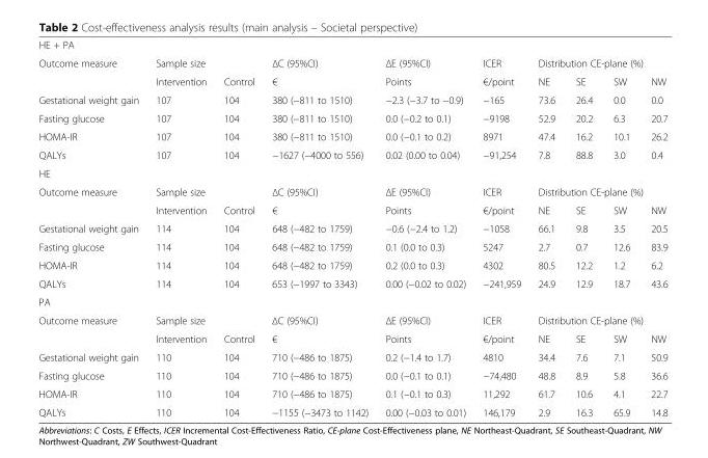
<table><tbody><tr><td colspan="10">HE + PA</td></tr><tr><td rowspan="2">Outcome measure</td><td colspan="2">Sample size</td><td>ΔC (95%CI)</td><td>ΔE (95%CI)</td><td>ICER</td><td colspan="4">Distribution CE-plane (%)</td></tr><tr><td>Intervention</td><td>Control</td><td>€</td><td>Points</td><td>€/point</td><td>NE</td><td>SE</td><td>SW</td><td>NW</td></tr><tr><td>Gestational weight gain</td><td>107</td><td>104</td><td>380 (−811 to 1510)</td><td>−2.3 (−3.7 to −0.9)</td><td>−165</td><td>73.6</td><td>26.4</td><td>0.0</td><td>0.0</td></tr><tr><td>Fasting glucose</td><td>107</td><td>104</td><td>380 (−811 to 1510)</td><td>0.0 (−0.2 to 0.1)</td><td>−9198</td><td>52.9</td><td>20.2</td><td>6.3</td><td>20.7</td></tr><tr><td>HOMA-IR</td><td>107</td><td>104</td><td>380 (−811 to 1510)</td><td>0.0 (−0.1 to 0.2)</td><td>8971</td><td>47.4</td><td>16.2</td><td>10.1</td><td>26.2</td></tr><tr><td>QALYs</td><td>107</td><td>104</td><td>−1627 (−4000 to 556)</td><td>0.02 (0.00 to 0.04)</td><td>−91,254</td><td>7.8</td><td>88.8</td><td>3.0</td><td>0.4</td></tr><tr><td colspan="10">HE</td></tr><tr><td rowspan="2">Outcome measure</td><td colspan="2">Sample size</td><td>ΔC (95%CI)</td><td>ΔE (95%CI)</td><td>ICER</td><td colspan="4">Distribution CE-plane (%)</td></tr><tr><td>Intervention</td><td>Control</td><td>€</td><td>Points</td><td>€/point</td><td>NE</td><td>SE</td><td>SW</td><td>NW</td></tr><tr><td>Gestational weight gain</td><td>114</td><td>104</td><td>648 (−482 to 1759)</td><td>−0.6 (−2.4 to 1.2)</td><td>−1058</td><td>66.1</td><td>9.8</td><td>3.5</td><td>20.5</td></tr><tr><td>Fasting glucose</td><td>114</td><td>104</td><td>648 (−482 to 1759)</td><td>0.1 (0.0 to 0.3)</td><td>5247</td><td>2.7</td><td>0.7</td><td>12.6</td><td>83.9</td></tr><tr><td>HOMA-IR</td><td>114</td><td>104</td><td>648 (−482 to 1759)</td><td>0.2 (0.0 to 0.3)</td><td>4302</td><td>80.5</td><td>12.2</td><td>1.2</td><td>6.2</td></tr><tr><td>QALYs</td><td>114</td><td>104</td><td>653 (−1997 to 3343)</td><td>0.00 (−0.02 to 0.02)</td><td>−241,959</td><td>24.9</td><td>12.9</td><td>18.7</td><td>43.6</td></tr><tr><td colspan="10">PA</td></tr><tr><td rowspan="2">Outcome measure</td><td colspan="2">Sample size</td><td>ΔC (95%CI)</td><td>ΔE (95%CI)</td><td>ICER</td><td colspan="4">Distribution CE-plane (%)</td></tr><tr><td>Intervention</td><td>Control</td><td>€</td><td>Points</td><td>€/point</td><td>NE</td><td>SE</td><td>SW</td><td>NW</td></tr><tr><td>Gestational weight gain</td><td>110</td><td>104</td><td>710 (−486 to 1875)</td><td>0.2 (−1.4 to 1.7)</td><td>4810</td><td>34.4</td><td>7.6</td><td>7.1</td><td>50.9</td></tr><tr><td>Fasting glucose</td><td>110</td><td>104</td><td>710 (−486 to 1875)</td><td>0.0 (−0.1 to 0.1)</td><td>−74,480</td><td>48.8</td><td>8.9</td><td>5.8</td><td>36.6</td></tr><tr><td>HOMA-IR</td><td>110</td><td>104</td><td>710 (−486 to 1875)</td><td>0.1 (−0.1 to 0.3)</td><td>11,292</td><td>61.7</td><td>10.6</td><td>4.1</td><td>22.7</td></tr><tr><td>QALYs</td><td>110</td><td>104</td><td>−1155 (−3473 to 1142)</td><td>0.00 (−0.03 to 0.01)</td><td>146,179</td><td>2.9</td><td>16.3</td><td>65.9</td><td>14.8</td></tr></tbody></table>